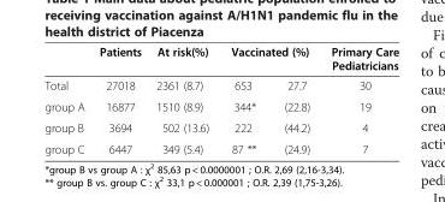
<table><thead><tr><td rowspan="2">Total</td><td rowspan="2">Patients 27018</td><td rowspan="2">At risk(%) 2361 (8.7)</td><td colspan="2">Vaccinated (%)</td><td rowspan="2">Primary Care Pediatricians 30</td></tr><tr><td>653</td><td>27.7</td></tr></thead><tbody><tr><td>group A</td><td>16877</td><td>1510 (8.9)</td><td>344*</td><td>(22.8)</td><td>19</td></tr><tr><td>group B</td><td>3694</td><td>502 (13.6)</td><td>222</td><td>(44.2)</td><td>4</td></tr><tr><td>group C</td><td>6447</td><td>349 (5.4)</td><td>87 **</td><td>(24.9)</td><td>7</td></tr></tbody></table>